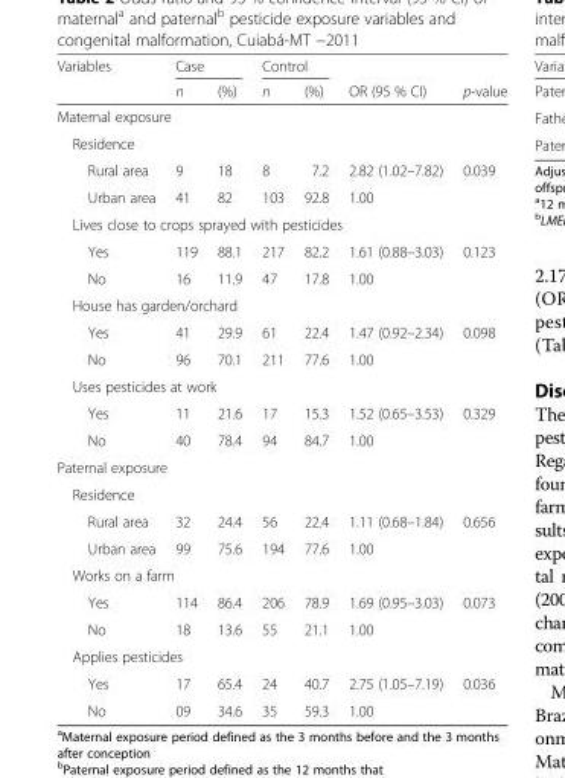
<table><thead><tr><td rowspan="2">Variables</td><td colspan="2">Case</td><td colspan="2">Control</td><td rowspan="2">OR (95 % CI)</td><td rowspan="2">p-value</td></tr><tr><td>n</td><td>(%)</td><td>n</td><td>(%)</td></tr></thead><tbody><tr><td colspan="7">Maternal exposure</td></tr><tr><td colspan="7">Residence</td></tr><tr><td>Rural area</td><td>9</td><td>18</td><td>8</td><td>7.2</td><td>2.82 (1.02–7.82)</td><td rowspan="2">0.039</td></tr><tr><td>Urban area</td><td>41</td><td>82</td><td>103</td><td>92.8</td><td>1.00</td></tr><tr><td colspan="7">Lives close to crops sprayed with pesticides</td></tr><tr><td>Yes</td><td>119</td><td>88.1</td><td>217</td><td>82.2</td><td>1.61 (0.88–3.03)</td><td rowspan="2">0.123</td></tr><tr><td>No</td><td>16</td><td>11.9</td><td>47</td><td>17.8</td><td>1.00</td></tr><tr><td colspan="7">House has garden/orchard</td></tr><tr><td>Yes</td><td>41</td><td>29.9</td><td>61</td><td>22.4</td><td>1.47 (0.92–2.34)</td><td rowspan="2">0.098</td></tr><tr><td>No</td><td>96</td><td>70.1</td><td>211</td><td>77.6</td><td>1.00</td></tr><tr><td colspan="7">Uses pesticides at work</td></tr><tr><td>Yes</td><td>11</td><td>21.6</td><td>17</td><td>15.3</td><td>1.52 (0.65–3.53)</td><td rowspan="2">0.329</td></tr><tr><td>No</td><td>40</td><td>78.4</td><td>94</td><td>84.7</td><td>1.00</td></tr><tr><td colspan="7">Paternal exposure</td></tr><tr><td colspan="7">Residence</td></tr><tr><td>Rural area</td><td>32</td><td>24.4</td><td>56</td><td>22.4</td><td>1.11 (0.68–1.84)</td><td rowspan="2">0.656</td></tr><tr><td>Urban area</td><td>99</td><td>75.6</td><td>194</td><td>77.6</td><td>1.00</td></tr><tr><td colspan="7">Works on a farm</td></tr><tr><td>Yes</td><td>114</td><td>86.4</td><td>206</td><td>78.9</td><td>1.69 (0.95–3.03)</td><td rowspan="2">0.073</td></tr><tr><td>No</td><td>18</td><td>13.6</td><td>55</td><td>21.1</td><td>1.00</td></tr><tr><td colspan="7">Applies pesticides</td></tr><tr><td>Yes</td><td>17</td><td>65.4</td><td>24</td><td>40.7</td><td>2.75 (1.05–7.19)</td><td rowspan="2">0.036</td></tr><tr><td>No</td><td>09</td><td>34.6</td><td>35</td><td>59.3</td><td>1.00</td></tr></tbody></table>